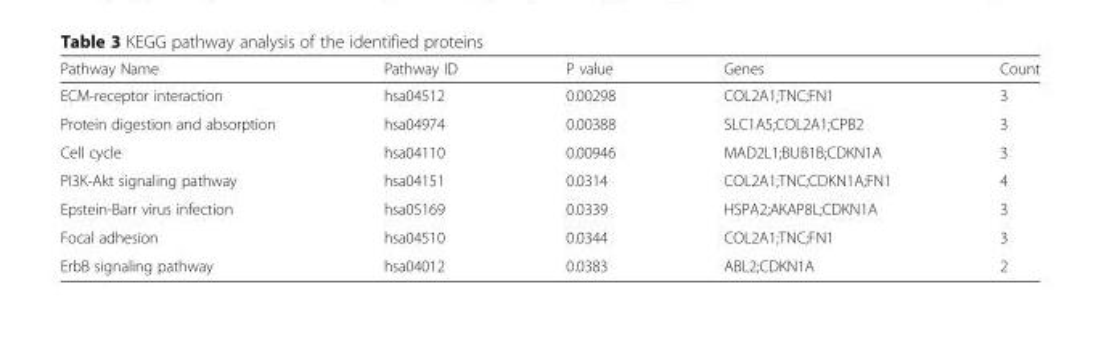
<table><thead><tr><td>Pathway Name</td><td>Pathway ID</td><td>P value</td><td>Genes</td><td>Count</td></tr></thead><tbody><tr><td>ECM-receptor interaction</td><td>hsa04512</td><td>0.00298</td><td>COL2A1;TNC;FN1</td><td>3</td></tr><tr><td>Protein digestion and absorption</td><td>hsa04974</td><td>0.00388</td><td>SLC1A5;COL2A1;CPB2</td><td>3</td></tr><tr><td>Cell cycle</td><td>hsa04110</td><td>0.00946</td><td>MAD2L1;BUB1B;CDKN1A</td><td>3</td></tr><tr><td>PI3K-Akt signaling pathway</td><td>hsa04151</td><td>0.0314</td><td>COL2A1;TNC;CDKN1A;FN1</td><td>4</td></tr><tr><td>Epstein-Barr virus infection</td><td>hsa05169</td><td>0.0339</td><td>HSPA2;AKAP8L;CDKN1A</td><td>3</td></tr><tr><td>Focal adhesion</td><td>hsa04510</td><td>0.0344</td><td>COL2A1;TNC;FN1</td><td>3</td></tr><tr><td>ErbB signaling pathway</td><td>hsa04012</td><td>0.0383</td><td>ABL2;CDKN1A</td><td>2</td></tr></tbody></table>